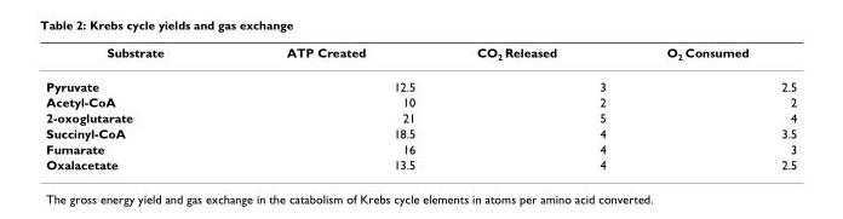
<table><thead><tr><td>Substrate</td><td>ATP Created</td><td>CO<sub>2</sub> Released</td><td>O<sub>2</sub> Consumed</td></tr></thead><tbody><tr><td>Pyruvate</td><td>12.5</td><td>3</td><td>2.5</td></tr><tr><td>Acetyl-CoA</td><td>10</td><td>2</td><td>2</td></tr><tr><td>2-oxoglutarate</td><td>21</td><td>5</td><td>4</td></tr><tr><td>Succinyl-CoA</td><td>18.5</td><td>4</td><td>3.5</td></tr><tr><td>Fumarate</td><td>16</td><td>4</td><td>3</td></tr><tr><td>Oxalacetate</td><td>13.5</td><td>4</td><td>2.5</td></tr></tbody></table>